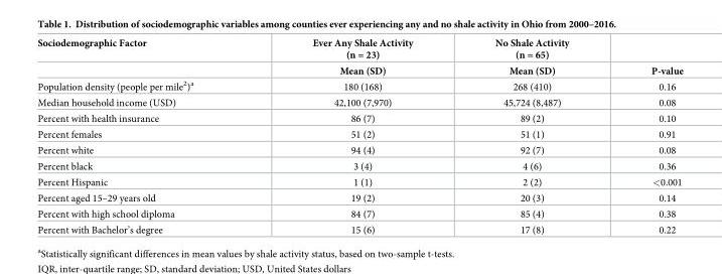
<table><thead><tr><td rowspan="2">Sociodemographic Factor</td><td rowspan="2">Ever Any Shale Activity (n = 23) Mean (SD)</td><td rowspan="2">No Shale Activity (n = 65) Mean (SD)</td><td rowspan="2">P-value</td></tr><tr></tr></thead><tbody><tr><td>Population density (people per mile<sup>2</sup>)<sup>a</sup></td><td>180 (168)</td><td>268 (410)</td><td>0.16</td></tr><tr><td>Median household income (USD)</td><td>42,100 (7,970)</td><td>45,724 (8,487)</td><td>0.08</td></tr><tr><td>Percent with health insurance</td><td>86 (7)</td><td>89 (2)</td><td>0.10</td></tr><tr><td>Percent females</td><td>51 (2)</td><td>51 (1)</td><td>0.91</td></tr><tr><td>Percent white</td><td>94 (4)</td><td>92 (7)</td><td>0.08</td></tr><tr><td>Percent black</td><td>3 (4)</td><td>4 (6)</td><td>0.36</td></tr><tr><td>Percent Hispanic</td><td>1 (1)</td><td>2 (2)</td><td>&lt;0.001</td></tr><tr><td>Percent aged 15–29 years old</td><td>19 (2)</td><td>20 (3)</td><td>0.14</td></tr><tr><td>Percent with high school diploma</td><td>84 (7)</td><td>85 (4)</td><td>0.38</td></tr><tr><td>Percent with Bachelor’s degree</td><td>15 (6)</td><td>17 (8)</td><td>0.22</td></tr></tbody></table>